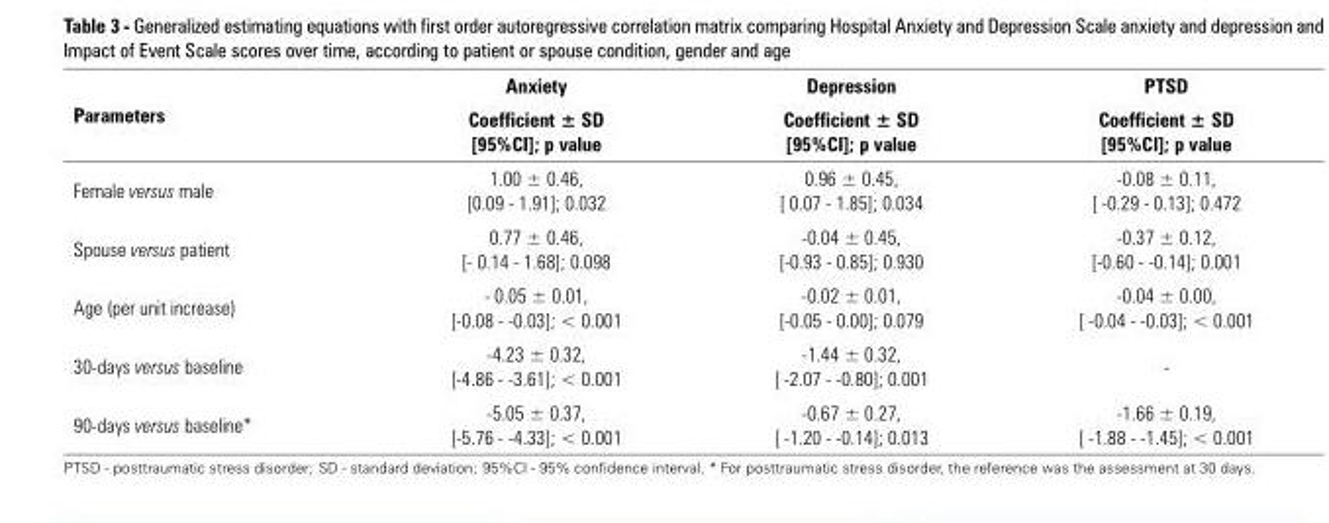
<table><thead><tr><td rowspan="2">Parameters</td><td rowspan="2">Anxiety Coefficient ± SD [95%CI]; p value</td><td rowspan="2">Depression Coefficient ± SD [95%CI]; p value</td><td rowspan="2">PTSD Coefficient ± SD [95%CI]; p value</td></tr><tr></tr></thead><tbody><tr><td>Female versus male</td><td>1.00 ± 0.46, [0.09 - 1.91]; 0.032</td><td>0.96 ± 0.45, [ 0.07 - 1.85]; 0.034</td><td>-0.08 ± 0.11, [ -0.29 - 0.13]; 0.472</td></tr><tr><td>Spouse versus patient</td><td>0.77 ± 0.46, [- 0.14 - 1.68]; 0.098</td><td>-0.04 ± 0.45, [-0.93 - 0.85]; 0.930</td><td>-0.37 ± 0.12, [-0.60 - -0.14]; 0.001</td></tr><tr><td>Age (per unit increase)</td><td>- 0.05 ± 0.01, [-0.08 - -0.03]; &lt; 0.001</td><td>-0.02 ± 0.01, [-0.05 - 0.00]; 0.079</td><td>-0.04 ± 0.00, [ -0.04 - -0.03]; &lt; 0.001</td></tr><tr><td>30-days versus baseline</td><td>-4.23 ± 0.32, [-4.86 - -3.61]; &lt; 0.001</td><td>-1.44 ± 0.32, [ -2.07 - -0.80]; 0.001</td><td>-</td></tr><tr><td>90-days versus baseline*</td><td>-5.05 ± 0.37, [-5.76 - -4.33]; &lt; 0.001</td><td>-0.67 ± 0.27, [ -1.20 - -0.14]; 0.013</td><td>-1.66 ± 0.19, [ -1.88 - -1.45]; &lt; 0.001</td></tr></tbody></table>